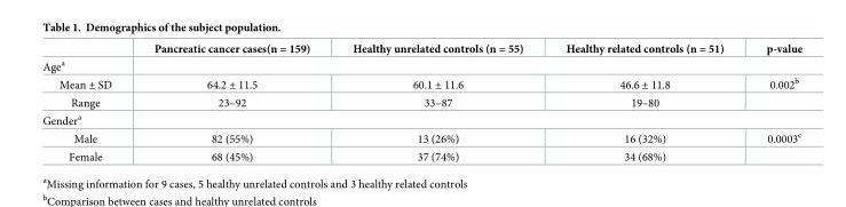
<table><thead><tr><td></td><td>Pancreatic cancer cases(n = 159)</td><td>Healthy unrelated controls (n = 55)</td><td>Healthy related controls (n = 51)</td><td>p-value</td></tr></thead><tbody><tr><td colspan="5">Age<sup>a</sup></td></tr><tr><td>Mean ± SD</td><td>64.2 ± 11.5</td><td>60.1 ± 11.6</td><td>46.6 ± 11.8</td><td>0.002<sup>b</sup></td></tr><tr><td>Range</td><td>23–92</td><td>33–87</td><td>19–80</td><td></td></tr><tr><td colspan="5">Gender<sup>a</sup></td></tr><tr><td>Male</td><td>82 (55%)</td><td>13 (26%)</td><td>16 (32%)</td><td>0.0003<sup>c</sup></td></tr><tr><td>Female</td><td>68 (45%)</td><td>37 (74%)</td><td>34 (68%)</td><td></td></tr></tbody></table>